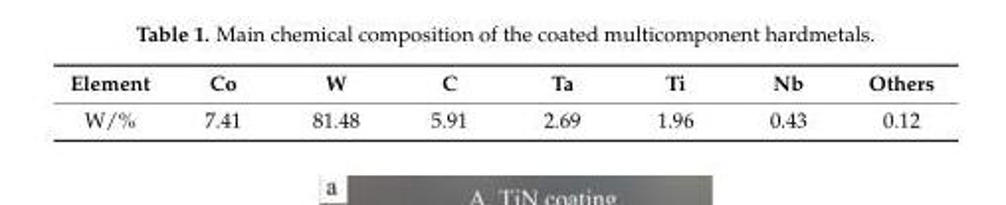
<table><thead><tr><td>Element</td><td>Co</td><td>W</td><td>C</td><td>Ta</td><td>Ti</td><td>Nb</td><td>Others</td></tr></thead><tbody><tr><td>W/%</td><td>7.41</td><td>81.48</td><td>5.91</td><td>2.69</td><td>1.96</td><td>0.43</td><td>0.12</td></tr></tbody></table>